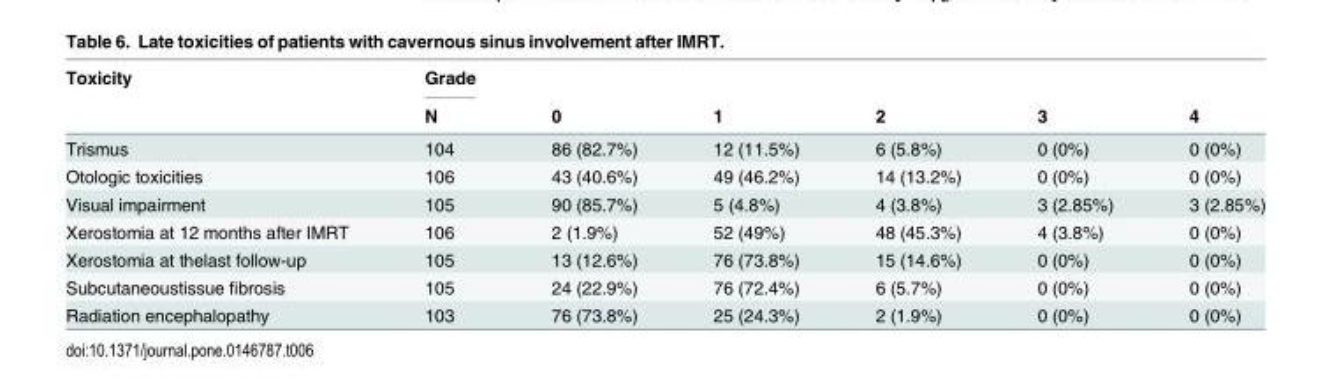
<table><thead><tr><td rowspan="2">Toxicity</td><td rowspan="2">Grade N</td><td rowspan="2">0</td><td rowspan="2">1</td><td rowspan="2">2</td><td rowspan="2">3</td><td rowspan="2">4</td></tr><tr></tr></thead><tbody><tr><td>Trismus</td><td>104</td><td>86 (82.7%)</td><td>12 (11.5%)</td><td>6 (5.8%)</td><td>0 (0%)</td><td>0 (0%)</td></tr><tr><td>Otologic toxicities</td><td>106</td><td>43 (40.6%)</td><td>49 (46.2%)</td><td>14 (13.2%)</td><td>0 (0%)</td><td>0 (0%)</td></tr><tr><td>Visual impairment</td><td>105</td><td>90 (85.7%)</td><td>5 (4.8%)</td><td>4 (3.8%)</td><td>3 (2.85%)</td><td>3 (2.85%)</td></tr><tr><td>Xerostomia at 12 months after IMRT</td><td>106</td><td>2 (1.9%)</td><td>52 (49%)</td><td>48 (45.3%)</td><td>4 (3.8%)</td><td>0 (0%)</td></tr><tr><td>Xerostomia at thelast follow-up</td><td>105</td><td>13 (12.6%)</td><td>76 (73.8%)</td><td>15 (14.6%)</td><td>0 (0%)</td><td>0 (0%)</td></tr><tr><td>Subcutaneoustissue fibrosis</td><td>105</td><td>24 (22.9%)</td><td>76 (72.4%)</td><td>6 (5.7%)</td><td>0 (0%)</td><td>0 (0%)</td></tr><tr><td>Radiation encephalopathy</td><td>103</td><td>76 (73.8%)</td><td>25 (24.3%)</td><td>2 (1.9%)</td><td>0 (0%)</td><td>0 (0%)</td></tr></tbody></table>